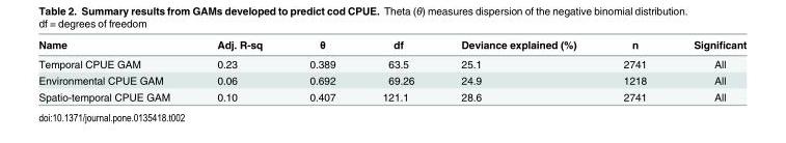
<table><thead><tr><td>Name</td><td>Adj. R-sq</td><td>θ</td><td>df</td><td>Deviance explained (%)</td><td>n</td><td>Significant</td></tr></thead><tbody><tr><td>Temporal CPUE GAM</td><td>0.23</td><td>0.389</td><td>63.5</td><td>25.1</td><td>2741</td><td>All</td></tr><tr><td>Environmental CPUE GAM</td><td>0.06</td><td>0.692</td><td>69.26</td><td>24.9</td><td>1218</td><td>All</td></tr><tr><td>Spatio-temporal CPUE GAM</td><td>0.10</td><td>0.407</td><td>121.1</td><td>28.6</td><td>2741</td><td>All</td></tr></tbody></table>